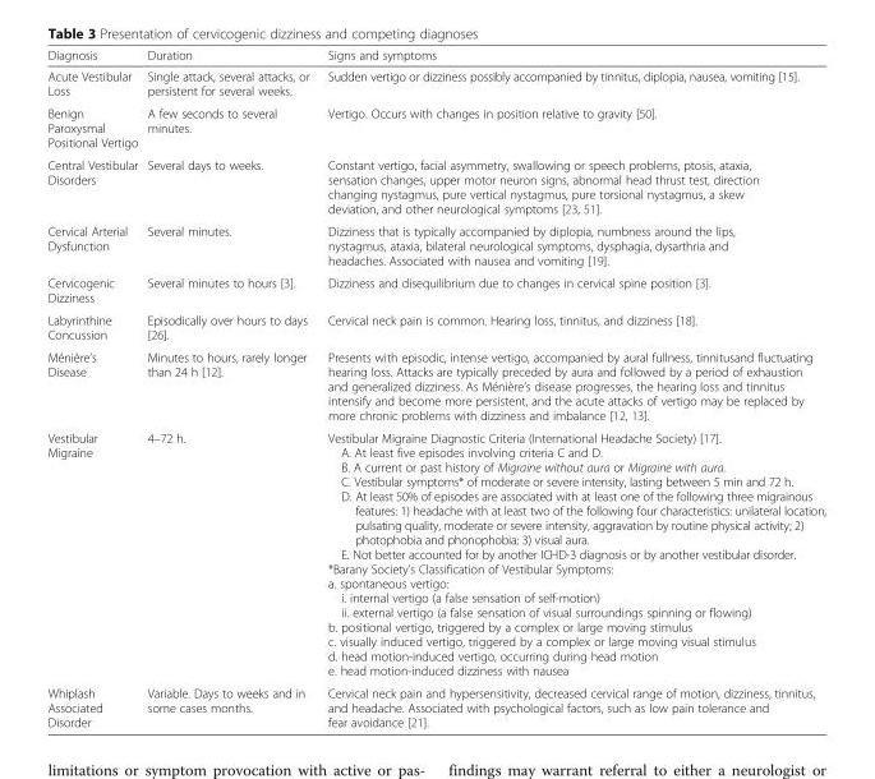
<table><thead><tr><td>Diagnosis</td><td>Duration</td><td>Signs and symptoms</td></tr></thead><tbody><tr><td>Acute Vestibular Loss</td><td>Single attack, several attacks, or persistent for several weeks.</td><td>Sudden vertigo or dizziness possibly accompanied by tinnitus, diplopia, nausea, vomiting [15].</td></tr><tr><td>Benign Paroxysmal Positional Vertigo</td><td>A few seconds to several minutes.</td><td>Vertigo. Occurs with changes in position relative to gravity [50].</td></tr><tr><td>Central Vestibular Disorders</td><td>Several days to weeks.</td><td>Constant vertigo, facial asymmetry, swallowing or speech problems, ptosis, ataxia, sensation changes, upper motor neuron signs, abnormal head thrust test, direction changing nystagmus, pure vertical nystagmus, pure torsional nystagmus, a skew deviation, and other neurological symptoms [23, 51].</td></tr><tr><td>Cervical Arterial Dysfunction</td><td>Several minutes.</td><td>Dizziness that is typically accompanied by diplopia, numbness around the lips, nystagmus, ataxia, bilateral neurological symptoms, dysphagia, dysarthria and headaches. Associated with nausea and vomiting [19].</td></tr><tr><td>Cervicogenic Dizziness</td><td>Several minutes to hours [3].</td><td>Dizziness and disequilibrium due to changes in cervical spine position [3].</td></tr><tr><td>Labyrinthine Concussion</td><td>Episodically over hours to days [26].</td><td>Cervical neck pain is common. Hearing loss, tinnitus, and dizziness [18].</td></tr><tr><td>Ménière’s Disease</td><td>Minutes to hours, rarely longer than 24 h [12].</td><td>Presents with episodic, intense vertigo, accompanied by aural fullness, tinnitusand fluctuating hearing loss. Attacks are typically preceded by aura and followed by a period of exhaustion and generalized dizziness. As Ménière’s disease progresses, the hearing loss and tinnitus intensify and become more persistent, and the acute attacks of vertigo may be replaced by more chronic problems with dizziness and imbalance [12, 13].</td></tr><tr><td>Vestibular Migraine</td><td>4–72 h.</td><td>Vestibular Migraine Diagnostic Criteria (International Headache Society) [17]. A. At least five episodes involving criteria C and D. B. A current or past history of Migraine without aura or Migraine with aura. C. Vestibular symptoms* of moderate or severe intensity, lasting between 5 min and 72 h. D. At least 50% of episodes are associated with at least one of the following three migrainous features: 1) headache with at least two of the following four characteristics: unilateral location, pulsating quality, moderate or severe intensity, aggravation by routine physical activity; 2) photophobia and phonophobia; 3) visual aura. E. Not better accounted for by another ICHD-3 diagnosis or by another vestibular disorder. *Barany Society’s Classification of Vestibular Symptoms: a. spontaneous vertigo: i. internal vertigo (a false sensation of self-motion) ii. external vertigo (a false sensation of visual surroundings spinning or flowing) b. positional vertigo, triggered by a complex or large moving stimulus c. visually induced vertigo, triggered by a complex or large moving visual stimulus d. head motion-induced vertigo, occurring during head motion e. head motion-induced dizziness with nausea</td></tr><tr><td>Whiplash Associated Disorder</td><td>Variable. Days to weeks and in some cases months.</td><td>Cervical neck pain and hypersensitivity, decreased cervical range of motion, dizziness, tinnitus, and headache. Associated with psychological factors, such as low pain tolerance and fear avoidance [21].</td></tr></tbody></table>